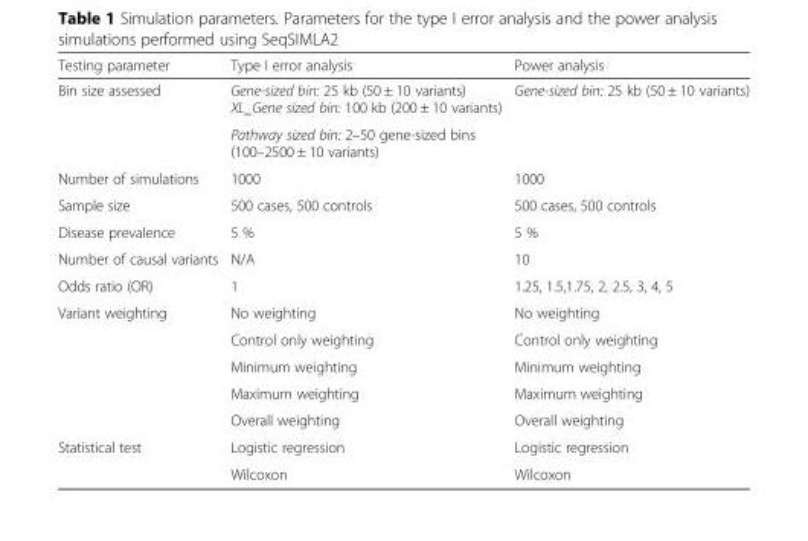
<table><thead><tr><td>Testing parameter</td><td>Type I error analysis</td><td>Power analysis</td></tr></thead><tbody><tr><td rowspan="2">Bin size assessed</td><td>Gene-sized bin: 25 kb (50 ± 10 variants) XL_Gene sized bin: 100 kb (200 ± 10 variants)</td><td rowspan="2">Gene-sized bin: 25 kb (50 ± 10 variants)</td></tr><tr><td>Pathway sized bin: 2–50 gene-sized bins (100–2500 ± 10 variants)</td></tr><tr><td>Number of simulations</td><td>1000</td><td>1000</td></tr><tr><td>Sample size</td><td>500 cases, 500 controls</td><td>500 cases, 500 controls</td></tr><tr><td>Disease prevalence</td><td>5 %</td><td>5 %</td></tr><tr><td>Number of causal variants</td><td>N/A</td><td>10</td></tr><tr><td>Odds ratio (OR)</td><td>1</td><td>1.25, 1.5,1.75, 2, 2.5, 3, 4, 5</td></tr><tr><td rowspan="5">Variant weighting</td><td>No weighting</td><td>No weighting</td></tr><tr><td>Control only weighting</td><td>Control only weighting</td></tr><tr><td>Minimum weighting</td><td>Minimum weighting</td></tr><tr><td>Maximum weighting</td><td>Maximum weighting</td></tr><tr><td>Overall weighting</td><td>Overall weighting</td></tr><tr><td rowspan="2">Statistical test</td><td>Logistic regression</td><td>Logistic regression</td></tr><tr><td>Wilcoxon</td><td>Wilcoxon</td></tr></tbody></table>